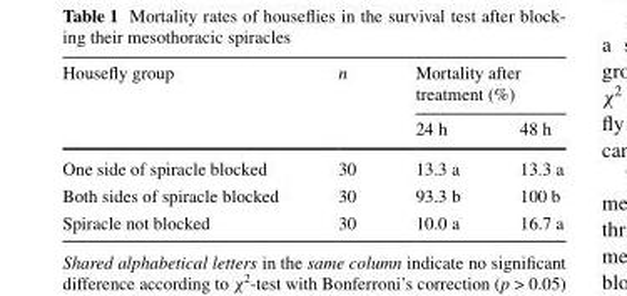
<table><thead><tr><td rowspan="2">Housefly group</td><td rowspan="2">n</td><td colspan="2">Mortality after treatment (%)</td></tr><tr><td>24 h</td><td>48 h</td></tr></thead><tbody><tr><td>One side of spiracle blocked</td><td>30</td><td>13.3 a</td><td>13.3 a</td></tr><tr><td>Both sides of spiracle blocked</td><td>30</td><td>93.3 b</td><td>100 b</td></tr><tr><td>Spiracle not blocked</td><td>30</td><td>10.0 a</td><td>16.7 a</td></tr></tbody></table>